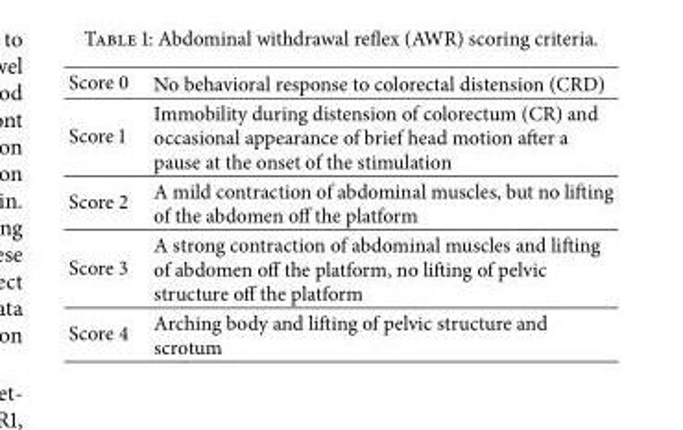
<table><tbody><tr><td>Score 0</td><td>No behavioral response to colorectal distension (CRD)</td></tr><tr><td>Score 1</td><td>Immobility during distension of colorectum (CR) and occasional appearance of brief head motion after a pause at the onset of the stimulation</td></tr><tr><td>Score 2</td><td>A mild contraction of abdominal muscles, but no lifting of the abdomen off the platform</td></tr><tr><td>Score 3</td><td>A strong contraction of abdominal muscles and lifting of abdomen off the platform, no lifting of pelvic structure off the platform</td></tr><tr><td>Score 4</td><td>Arching body and lifting of pelvic structure and scrotum</td></tr></tbody></table>